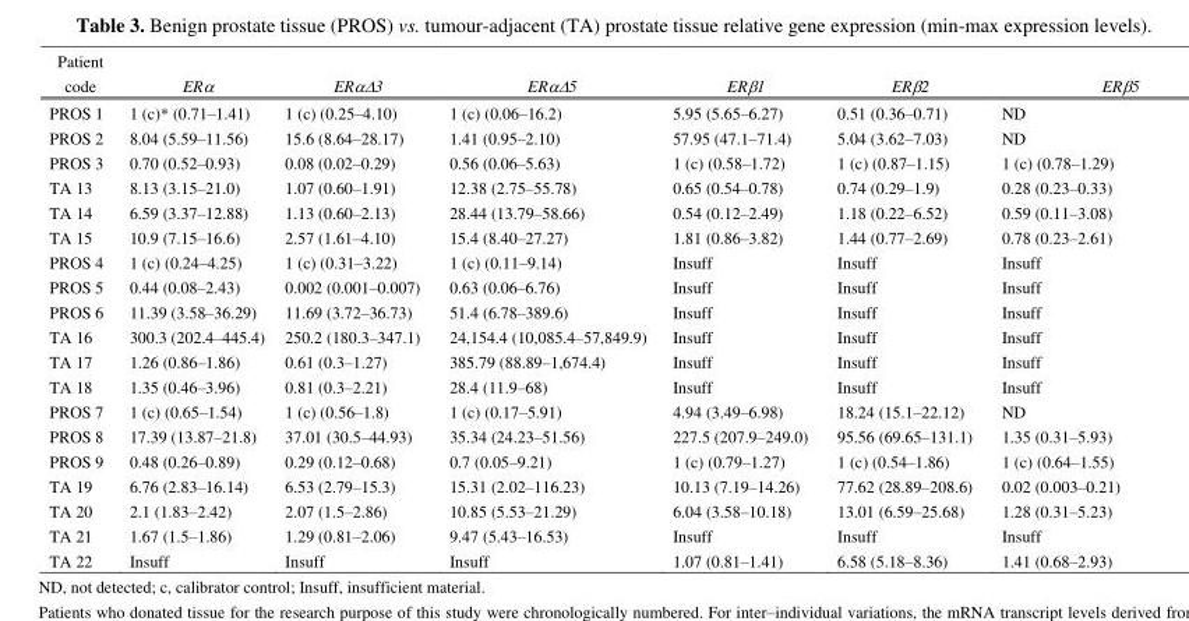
<table><thead><tr><td>Patient code</td><td>ERα</td><td>ERαΔ3</td><td>ERαΔ5</td><td>ERβ1</td><td>ERβ2</td><td>ERβ5</td></tr></thead><tbody><tr><td>PROS 1</td><td>1 (c)* (0.71–1.41)</td><td>1 (c) (0.25–4.10)</td><td>1 (c) (0.06–16.2)</td><td>5.95 (5.65–6.27)</td><td>0.51 (0.36–0.71)</td><td>ND</td></tr><tr><td>PROS 2</td><td>8.04 (5.59–11.56)</td><td>15.6 (8.64–28.17)</td><td>1.41 (0.95–2.10)</td><td>57.95 (47.1–71.4)</td><td>5.04 (3.62–7.03)</td><td>ND</td></tr><tr><td>PROS 3</td><td>0.70 (0.52–0.93)</td><td>0.08 (0.02–0.29)</td><td>0.56 (0.06–5.63)</td><td>1 (c) (0.58–1.72)</td><td>1 (c) (0.87–1.15)</td><td>1 (c) (0.78–1.29)</td></tr><tr><td>TA 13</td><td>8.13 (3.15–21.0)</td><td>1.07 (0.60–1.91)</td><td>12.38 (2.75–55.78)</td><td>0.65 (0.54–0.78)</td><td>0.74 (0.29–1.9)</td><td>0.28 (0.23–0.33)</td></tr><tr><td>TA 14</td><td>6.59 (3.37–12.88)</td><td>1.13 (0.60–2.13)</td><td>28.44 (13.79–58.66)</td><td>0.54 (0.12–2.49)</td><td>1.18 (0.22–6.52)</td><td>0.59 (0.11–3.08)</td></tr><tr><td>TA 15</td><td>10.9 (7.15–16.6)</td><td>2.57 (1.61–4.10)</td><td>15.4 (8.40–27.27)</td><td>1.81 (0.86–3.82)</td><td>1.44 (0.77–2.69)</td><td>0.78 (0.23–2.61)</td></tr><tr><td>PROS 4</td><td>1 (c) (0.24–4.25)</td><td>1 (c) (0.31–3.22)</td><td>1 (c) (0.11–9.14)</td><td>Insuff</td><td>Insuff</td><td>Insuff</td></tr><tr><td>PROS 5</td><td>0.44 (0.08–2.43)</td><td>0.002 (0.001–0.007)</td><td>0.63 (0.06–6.76)</td><td>Insuff</td><td>Insuff</td><td>Insuff</td></tr><tr><td>PROS 6</td><td>11.39 (3.58–36.29)</td><td>11.69 (3.72–36.73)</td><td>51.4 (6.78–389.6)</td><td>Insuff</td><td>Insuff</td><td>Insuff</td></tr><tr><td>TA 16</td><td>300.3 (202.4–445.4)</td><td>250.2 (180.3–347.1)</td><td>24,154.4 (10,085.4–57,849.9)</td><td>Insuff</td><td>Insuff</td><td>Insuff</td></tr><tr><td>TA 17</td><td>1.26 (0.86–1.86)</td><td>0.61 (0.3–1.27)</td><td>385.79 (88.89–1,674.4)</td><td>Insuff</td><td>Insuff</td><td>Insuff</td></tr><tr><td>TA 18</td><td>1.35 (0.46–3.96)</td><td>0.81 (0.3–2.21)</td><td>28.4 (11.9–68)</td><td>Insuff</td><td>Insuff</td><td>Insuff</td></tr><tr><td>PROS 7</td><td>1 (c) (0.65–1.54)</td><td>1 (c) (0.56–1.8)</td><td>1 (c) (0.17–5.91)</td><td>4.94 (3.49–6.98)</td><td>18.24 (15.1–22.12)</td><td>ND</td></tr><tr><td>PROS 8</td><td>17.39 (13.87–21.8)</td><td>37.01 (30.5–44.93)</td><td>35.34 (24.23–51.56)</td><td>227.5 (207.9–249.0)</td><td>95.56 (69.65–131.1)</td><td>1.35 (0.31–5.93)</td></tr><tr><td>PROS 9</td><td>0.48 (0.26–0.89)</td><td>0.29 (0.12–0.68)</td><td>0.7 (0.05–9.21)</td><td>1 (c) (0.79–1.27)</td><td>1 (c) (0.54–1.86)</td><td>1 (c) (0.64–1.55)</td></tr><tr><td>TA 19</td><td>6.76 (2.83–16.14)</td><td>6.53 (2.79–15.3)</td><td>15.31 (2.02–116.23)</td><td>10.13 (7.19–14.26)</td><td>77.62 (28.89–208.6)</td><td>0.02 (0.003–0.21)</td></tr><tr><td>TA 20</td><td>2.1 (1.83–2.42)</td><td>2.07 (1.5–2.86)</td><td>10.85 (5.53–21.29)</td><td>6.04 (3.58–10.18)</td><td>13.01 (6.59–25.68)</td><td>1.28 (0.31–5.23)</td></tr><tr><td>TA 21</td><td>1.67 (1.5–1.86)</td><td>1.29 (0.81–2.06)</td><td>9.47 (5.43–16.53)</td><td>Insuff</td><td>Insuff</td><td>Insuff</td></tr><tr><td>TA 22</td><td>Insuff</td><td>Insuff</td><td>Insuff</td><td>1.07 (0.81–1.41)</td><td>6.58 (5.18–8.36)</td><td>1.41 (0.68–2.93)</td></tr></tbody></table>